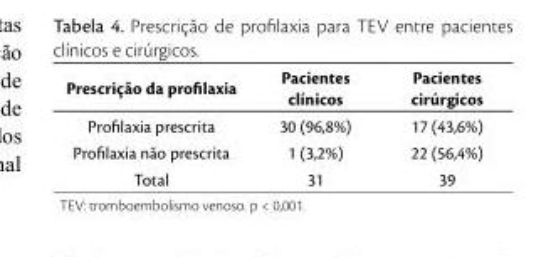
<table><thead><tr><td>Prescrição da profilaxia</td><td>Pacientes clínicos</td><td>Pacientes cirúrgicos</td></tr></thead><tbody><tr><td>Profilaxia prescrita</td><td>30 (96,8%)</td><td>17 (43,6%)</td></tr><tr><td>Profilaxia não prescrita</td><td>1 (3,2%)</td><td>22 (56,4%)</td></tr><tr><td>Total</td><td>31</td><td>39</td></tr></tbody></table>